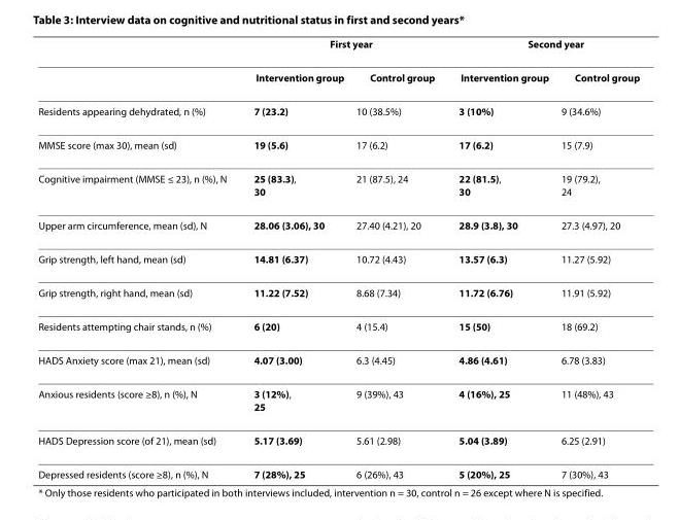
<table><thead><tr><td rowspan="2"></td><td colspan="2">First year</td><td colspan="2">Second year</td></tr><tr><td>Intervention group</td><td>Control group</td><td>Intervention group</td><td>Control group</td></tr></thead><tbody><tr><td>Residents appearing dehydrated, n (%)</td><td>7 (23.2)</td><td>10 (38.5%)</td><td>3 (10%)</td><td>9 (34.6%)</td></tr><tr><td>MMSE score (max 30), mean (sd)</td><td>19 (5.6)</td><td>17 (6.2)</td><td>17 (6.2)</td><td>15 (7.9)</td></tr><tr><td>Cognitive impairment (MMSE ≤ 23), n (%), N</td><td>25 (83.3), 30</td><td>21 (87.5), 24</td><td>22 (81.5), 30</td><td>19 (79.2), 24</td></tr><tr><td>Upper arm circumference, mean (sd), N</td><td>28.06 (3.06), 30</td><td>27.40 (4.21), 20</td><td>28.9 (3.8), 30</td><td>27.3 (4.97), 20</td></tr><tr><td>Grip strength, left hand, mean (sd)</td><td>14.81 (6.37)</td><td>10.72 (4.43)</td><td>13.57 (6.3)</td><td>11.27 (5.92)</td></tr><tr><td>Grip strength, right hand, mean (sd)</td><td>11.22 (7.52)</td><td>8.68 (7.34)</td><td>11.72 (6.76)</td><td>11.91 (5.92)</td></tr><tr><td>Residents attempting chair stands, n (%)</td><td>6 (20)</td><td>4 (15.4)</td><td>15 (50)</td><td>18 (69.2)</td></tr><tr><td>HADS Anxiety score (max 21), mean (sd)</td><td>4.07 (3.00)</td><td>6.3 (4.45)</td><td>4.86 (4.61)</td><td>6.78 (3.83)</td></tr><tr><td>Anxious residents (score ≥8), n (%), N</td><td>3 (12%), 25</td><td>9 (39%), 43</td><td>4 (16%), 25</td><td>11 (48%), 43</td></tr><tr><td>HADS Depression score (of 21), mean (sd)</td><td>5.17 (3.69)</td><td>5.61 (2.98)</td><td>5.04 (3.89)</td><td>6.25 (2.91)</td></tr><tr><td>Depressed residents (score ≥8), n (%), N</td><td>7 (28%), 25</td><td>6 (26%), 43</td><td>5 (20%), 25</td><td>7 (30%), 43</td></tr></tbody></table>